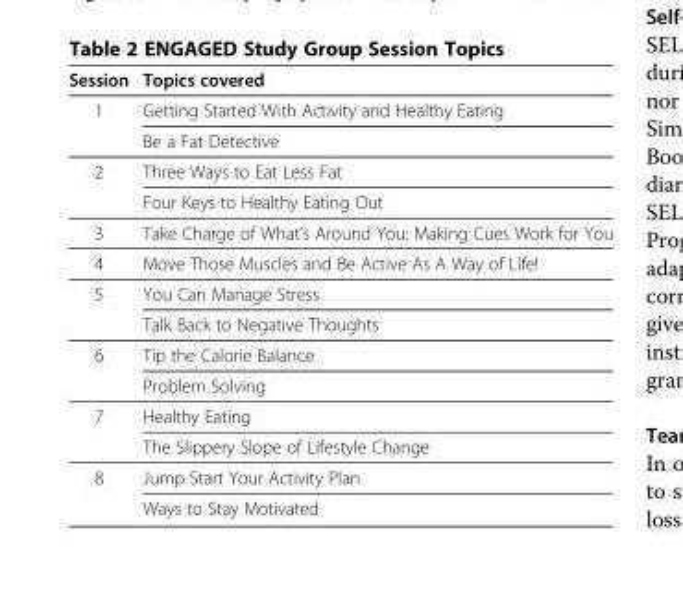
<table><thead><tr><td>Session</td><td>Topics covered</td></tr></thead><tbody><tr><td rowspan="2">1</td><td>Getting Started With Activity and Healthy Eating</td></tr><tr><td>Be a Fat Detective</td></tr><tr><td rowspan="2">2</td><td>Three Ways to Eat Less Fat</td></tr><tr><td>Four Keys to Healthy Eating Out</td></tr><tr><td>3</td><td>Take Charge of What’s Around You: Making Cues Work for You</td></tr><tr><td>4</td><td>Move Those Muscles and Be Active As A Way of Life!</td></tr><tr><td rowspan="2">5</td><td>You Can Manage Stress</td></tr><tr><td>Talk Back to Negative Thoughts</td></tr><tr><td rowspan="2">6</td><td>Tip the Calorie Balance</td></tr><tr><td>Problem Solving</td></tr><tr><td rowspan="2">7</td><td>Healthy Eating</td></tr><tr><td>The Slippery Slope of Lifestyle Change</td></tr><tr><td rowspan="2">8</td><td>Jump Start Your Activity Plan</td></tr><tr><td>Ways to Stay Motivated</td></tr></tbody></table>